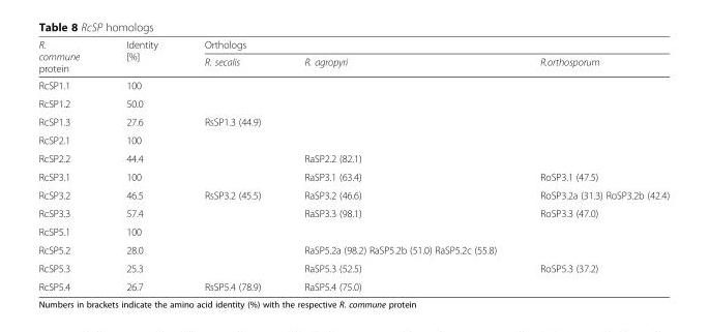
<table><thead><tr><td rowspan="2">R. commune protein</td><td rowspan="2">Identity [%]</td><td colspan="3">Orthologs</td></tr><tr><td>R. secalis</td><td>R. agropyri</td><td>R.orthosporum</td></tr></thead><tbody><tr><td>RcSP1.1</td><td>100</td><td></td><td></td><td></td></tr><tr><td>RcSP1.2</td><td>50.0</td><td></td><td></td><td></td></tr><tr><td>RcSP1.3</td><td>27.6</td><td>RsSP1.3 (44.9)</td><td></td><td></td></tr><tr><td>RcSP2.1</td><td>100</td><td></td><td></td><td></td></tr><tr><td>RcSP2.2</td><td>44.4</td><td></td><td>RaSP2.2 (82.1)</td><td></td></tr><tr><td>RcSP3.1</td><td>100</td><td></td><td>RaSP3.1 (63.4)</td><td>RoSP3.1 (47.5)</td></tr><tr><td>RcSP3.2</td><td>46.5</td><td>RsSP3.2 (45.5)</td><td>RaSP3.2 (46.6)</td><td>RoSP3.2a (31.3) RoSP3.2b (42.4)</td></tr><tr><td>RcSP3.3</td><td>57.4</td><td></td><td>RaSP3.3 (98.1)</td><td>RoSP3.3 (47.0)</td></tr><tr><td>RcSP5.1</td><td>100</td><td></td><td></td><td></td></tr><tr><td>RcSP5.2</td><td>28.0</td><td></td><td>RaSP5.2a (98.2) RaSP5.2b (51.0) RaSP5.2c (55.8)</td><td></td></tr><tr><td>RcSP5.3</td><td>25.3</td><td></td><td>RaSP5.3 (52.5)</td><td>RoSP5.3 (37.2)</td></tr><tr><td>RcSP5.4</td><td>26.7</td><td>RsSP5.4 (78.9)</td><td>RaSP5.4 (75.0)</td><td></td></tr></tbody></table>